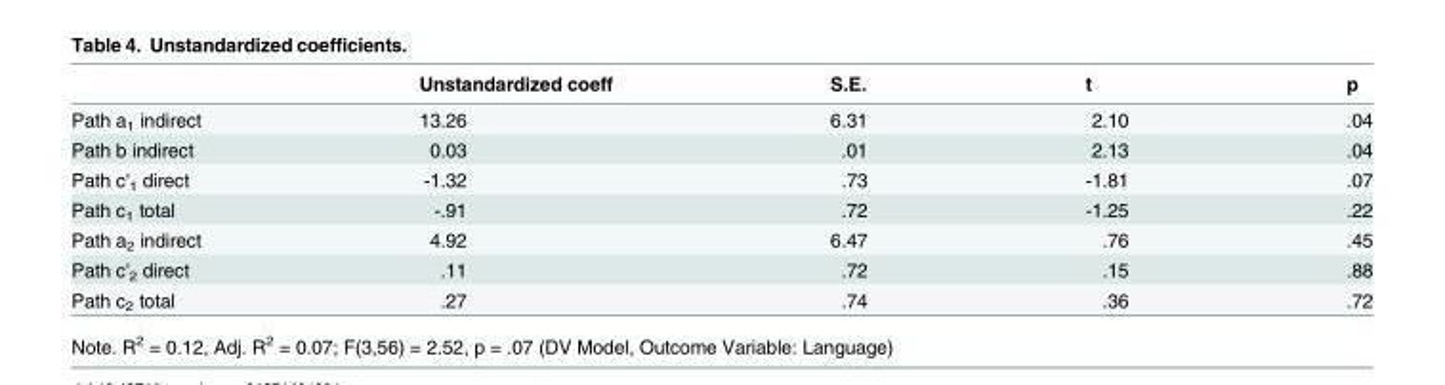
<table><thead><tr><td></td><td>Unstandardized coeff</td><td>S.E.</td><td>t</td><td>p</td></tr></thead><tbody><tr><td>Path a<sub>1</sub> indirect</td><td>13.26</td><td>6.31</td><td>2.10</td><td>.04</td></tr><tr><td>Path b indirect</td><td>0.03</td><td>.01</td><td>2.13</td><td>.04</td></tr><tr><td>Path c&#x27;<sub>1</sub> direct</td><td>-1.32</td><td>.73</td><td>-1.81</td><td>.07</td></tr><tr><td>Path c<sub>1</sub> total</td><td>-.91</td><td>.72</td><td>-1.25</td><td>.22</td></tr><tr><td>Path a<sub>2</sub> indirect</td><td>4.92</td><td>6.47</td><td>.76</td><td>.45</td></tr><tr><td>Path c&#x27;<sub>2</sub> direct</td><td>.11</td><td>.72</td><td>.15</td><td>.88</td></tr><tr><td>Path c<sub>2</sub> total</td><td>.27</td><td>.74</td><td>.36</td><td>.72</td></tr></tbody></table>